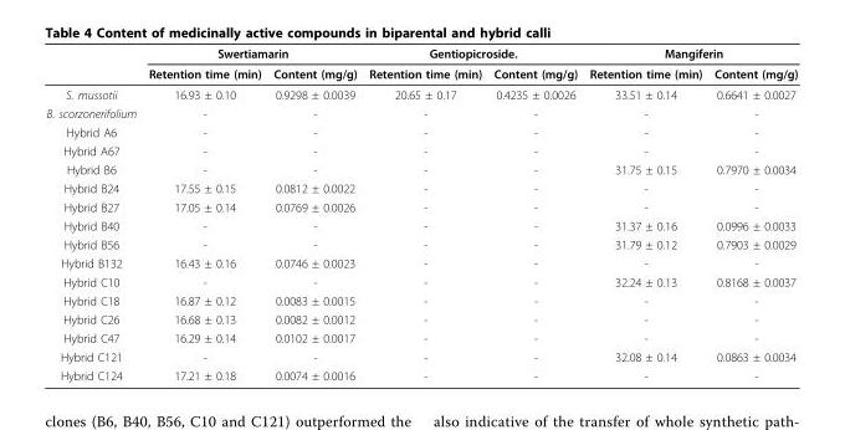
<table><thead><tr><td rowspan="2"></td><td colspan="2">Swertiamarin</td><td colspan="2">Gentiopicroside.</td><td colspan="2">Mangiferin</td></tr><tr><td>Retention time (min)</td><td>Content (mg/g)</td><td>Retention time (min)</td><td>Content (mg/g)</td><td>Retention time (min)</td><td>Content (mg/g)</td></tr></thead><tbody><tr><td>S. mussotii</td><td>16.93 ± 0.10</td><td>0.9298 ± 0.0039</td><td>20.65 ± 0.17</td><td>0.4235 ± 0.0026</td><td>33.51 ± 0.14</td><td>0.6641 ± 0.0027</td></tr><tr><td>B. scorzonerifolium</td><td>-</td><td>-</td><td>-</td><td>-</td><td>-</td><td>-</td></tr><tr><td>Hybrid A6</td><td>-</td><td>-</td><td>-</td><td>-</td><td>-</td><td>-</td></tr><tr><td>Hybrid A67</td><td>-</td><td>-</td><td>-</td><td>-</td><td>-</td><td>-</td></tr><tr><td>Hybrid B6</td><td>-</td><td>-</td><td>-</td><td>-</td><td>31.75 ± 0.15</td><td>0.7970 ± 0.0034</td></tr><tr><td>Hybrid B24</td><td>17.55 ± 0.15</td><td>0.0812 ± 0.0022</td><td>-</td><td>-</td><td>-</td><td>-</td></tr><tr><td>Hybrid B27</td><td>17.05 ± 0.14</td><td>0.0769 ± 0.0026</td><td>-</td><td>-</td><td>-</td><td>-</td></tr><tr><td>Hybrid B40</td><td>-</td><td>-</td><td>-</td><td>-</td><td>31.37 ± 0.16</td><td>0.0996 ± 0.0033</td></tr><tr><td>Hybrid B56</td><td>-</td><td>-</td><td>-</td><td>-</td><td>31.79 ± 0.12</td><td>0.7903 ± 0.0029</td></tr><tr><td>Hybrid B132</td><td>16.43 ± 0.16</td><td>0.0746 ± 0.0023</td><td>-</td><td>-</td><td>-</td><td>-</td></tr><tr><td>Hybrid C10</td><td>-</td><td>-</td><td>-</td><td>-</td><td>32.24 ± 0.13</td><td>0.8168 ± 0.0037</td></tr><tr><td>Hybrid C18</td><td>16.87 ± 0.12</td><td>0.0083 ± 0.0015</td><td>-</td><td>-</td><td>-</td><td>-</td></tr><tr><td>Hybrid C26</td><td>16.68 ± 0.13</td><td>0.0082 ± 0.0012</td><td>-</td><td>-</td><td>-</td><td>-</td></tr><tr><td>Hybrid C47</td><td>16.29 ± 0.14</td><td>0.0102 ± 0.0017</td><td>-</td><td>-</td><td>-</td><td>-</td></tr><tr><td>Hybrid C121</td><td>-</td><td>-</td><td>-</td><td>-</td><td>32.08 ± 0.14</td><td>0.0863 ± 0.0034</td></tr><tr><td>Hybrid C124</td><td>17.21 ± 0.18</td><td>0.0074 ± 0.0016</td><td>-</td><td>-</td><td>-</td><td>-</td></tr></tbody></table>